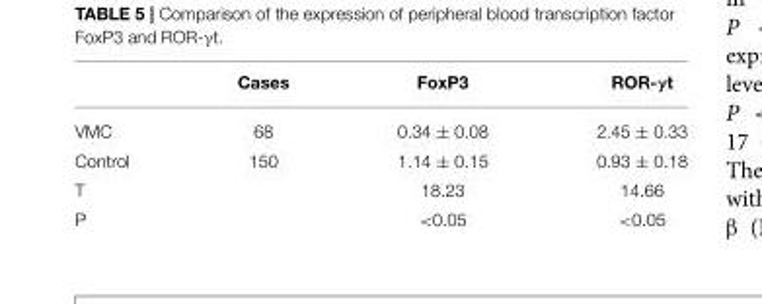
<table><thead><tr><td></td><td>Cases</td><td>FoxP3</td><td>ROR-γt</td></tr></thead><tbody><tr><td>VMC</td><td>68</td><td>0.34 ± 0.08</td><td>2.45 ± 0.33</td></tr><tr><td>Control</td><td>150</td><td>1.14 ± 0.15</td><td>0.93 ± 0.18</td></tr><tr><td>T</td><td></td><td>18.23</td><td>14.66</td></tr><tr><td>P</td><td></td><td>&lt;0.05</td><td>&lt;0.05</td></tr></tbody></table>